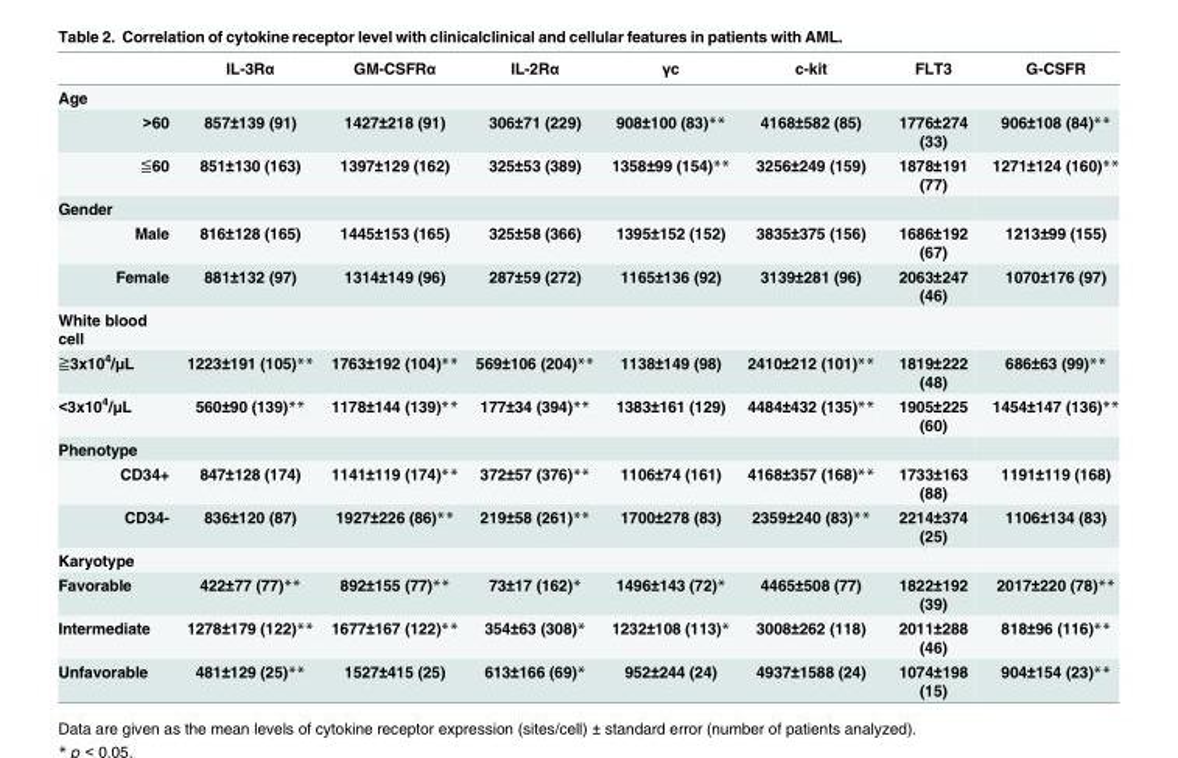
<table><thead><tr><td></td><td>IL-3Rα</td><td>GM-CSFRα</td><td>IL-2Rα</td><td>γc</td><td>c-kit</td><td>FLT3</td><td>G-CSFR</td></tr></thead><tbody><tr><td colspan="8">Age</td></tr><tr><td>&gt;60</td><td>857±139 (91)</td><td>1427±218 (91)</td><td>306±71 (229)</td><td>908±100 (83)**</td><td>4168±582 (85)</td><td>1776±274 (33)</td><td>906±108 (84)**</td></tr><tr><td>≦60</td><td>851±130 (163)</td><td>1397±129 (162)</td><td>325±53 (389)</td><td>1358±99 (154)**</td><td>3256±249 (159)</td><td>1878±191 (77)</td><td>1271±124 (160)**</td></tr><tr><td colspan="8">Gender</td></tr><tr><td>Male</td><td>816±128 (165)</td><td>1445±153 (165)</td><td>325±58 (366)</td><td>1395±152 (152)</td><td>3835±375 (156)</td><td>1686±192 (67)</td><td>1213±99 (155)</td></tr><tr><td>Female</td><td>881±132 (97)</td><td>1314±149 (96)</td><td>287±59 (272)</td><td>1165±136 (92)</td><td>3139±281 (96)</td><td>2063±247 (46)</td><td>1070±176 (97)</td></tr><tr><td colspan="8">White blood cell</td></tr><tr><td>≧3x10<sup>4</sup>/μL</td><td>1223±191 (105)**</td><td>1763±192 (104)**</td><td>569±106 (204)**</td><td>1138±149 (98)</td><td>2410±212 (101)**</td><td>1819±222 (48)</td><td>686±63 (99)**</td></tr><tr><td>&lt;3x10<sup>4</sup>/μL</td><td>560±90 (139)**</td><td>1178±144 (139)**</td><td>177±34 (394)**</td><td>1383±161 (129)</td><td>4484±432 (135)**</td><td>1905±225 (60)</td><td>1454±147 (136)**</td></tr><tr><td colspan="8">Phenotype</td></tr><tr><td>CD34+</td><td>847±128 (174)</td><td>1141±119 (174)**</td><td>372±57 (376)**</td><td>1106±74 (161)</td><td>4168±357 (168)**</td><td>1733±163 (88)</td><td>1191±119 (168)</td></tr><tr><td>CD34-</td><td>836±120 (87)</td><td>1927±226 (86)**</td><td>219±58 (261)**</td><td>1700±278 (83)</td><td>2359±240 (83)**</td><td>2214±374 (25)</td><td>1106±134 (83)</td></tr><tr><td colspan="8">Karyotype</td></tr><tr><td>Favorable</td><td>422±77 (77)**</td><td>892±155 (77)**</td><td>73±17 (162)*</td><td>1496±143 (72)*</td><td>4465±508 (77)</td><td>1822±192 (39)</td><td>2017±220 (78)**</td></tr><tr><td>Intermediate</td><td>1278±179 (122)**</td><td>1677±167 (122)**</td><td>354±63 (308)*</td><td>1232±108 (113)*</td><td>3008±262 (118)</td><td>2011±288 (46)</td><td>818±96 (116)**</td></tr><tr><td>Unfavorable</td><td>481±129 (25)**</td><td>1527±415 (25)</td><td>613±166 (69)*</td><td>952±244 (24)</td><td>4937±1588 (24)</td><td>1074±198 (15)</td><td>904±154 (23)**</td></tr></tbody></table>